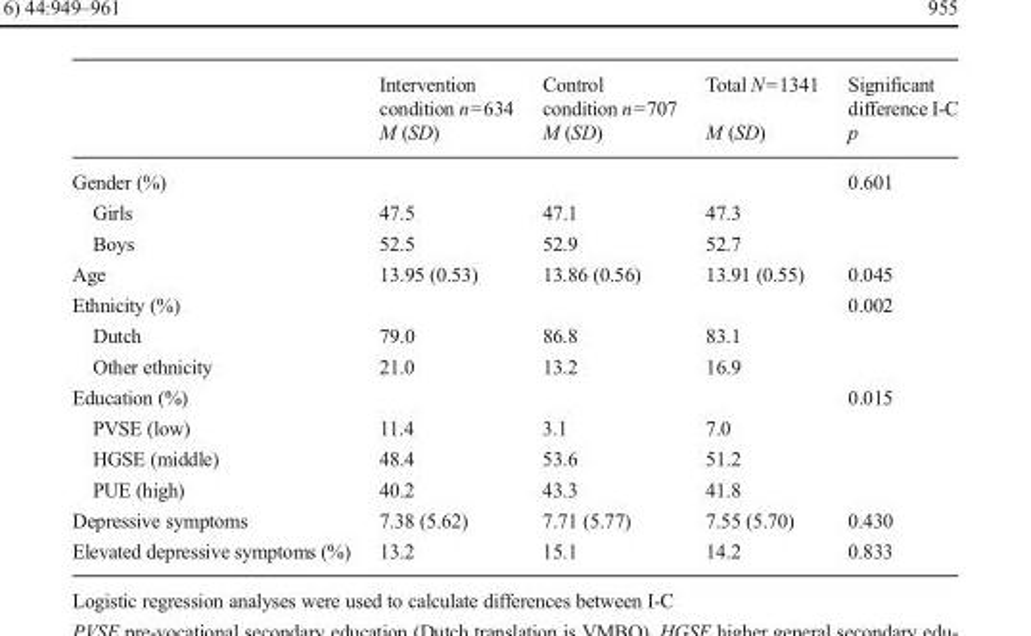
<table><thead><tr><td rowspan="2"></td><td rowspan="2">Intervention condition n=634 M (SD)</td><td rowspan="2">Control condition n=707 M (SD)</td><td rowspan="2">Total N=1341 M (SD)</td><td rowspan="2">Significant difference I-C p</td></tr><tr></tr></thead><tbody><tr><td>Gender (%)</td><td></td><td></td><td></td><td>0.601</td></tr><tr><td>Girls</td><td>47.5</td><td>47.1</td><td>47.3</td><td></td></tr><tr><td>Boys</td><td>52.5</td><td>52.9</td><td>52.7</td><td></td></tr><tr><td>Age</td><td>13.95 (0.53)</td><td>13.86 (0.56)</td><td>13.91 (0.55)</td><td>0.045</td></tr><tr><td>Ethnicity (%)</td><td></td><td></td><td></td><td>0.002</td></tr><tr><td>Dutch</td><td>79.0</td><td>86.8</td><td>83.1</td><td></td></tr><tr><td>Other ethnicity</td><td>21.0</td><td>13.2</td><td>16.9</td><td></td></tr><tr><td>Education (%)</td><td></td><td></td><td></td><td>0.015</td></tr><tr><td>PVSE (low)</td><td>11.4</td><td>3.1</td><td>7.0</td><td></td></tr><tr><td>HGSE (middle)</td><td>48.4</td><td>53.6</td><td>51.2</td><td></td></tr><tr><td>PUE (high)</td><td>40.2</td><td>43.3</td><td>41.8</td><td></td></tr><tr><td>Depressive symptoms</td><td>7.38 (5.62)</td><td>7.71 (5.77)</td><td>7.55 (5.70)</td><td>0.430</td></tr><tr><td>Elevated depressive symptoms (%)</td><td>13.2</td><td>15.1</td><td>14.2</td><td>0.833</td></tr></tbody></table>